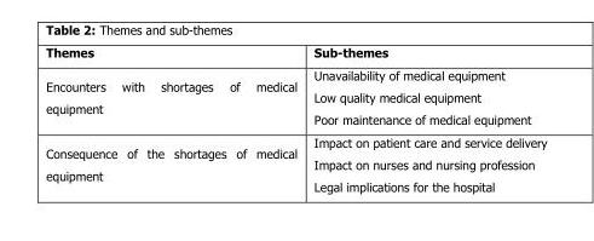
<table><thead><tr><td>Themes</td><td>Sub-themes</td></tr></thead><tbody><tr><td>Encounters with shortages of medical equipment</td><td>Unavailability of medical equipment Low quality medical equipment Poor maintenance of medical equipment</td></tr><tr><td>Consequence of the shortages of medical equipment</td><td>Impact on patient care and service delivery Impact on nurses and nursing profession Legal implications for the hospital</td></tr></tbody></table>